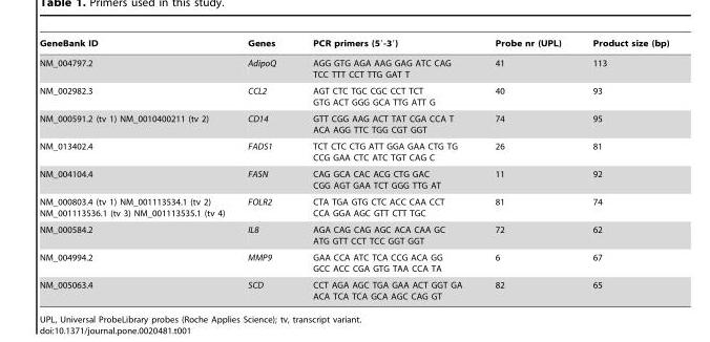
<table><thead><tr><td>GeneBank ID</td><td>Genes</td><td>PCR primers (5′-3′)</td><td>Probe nr (UPL)</td><td>Product size (bp)</td></tr></thead><tbody><tr><td>NM_004797.2</td><td>AdipoQ</td><td>AGG GTG AGA AAG GAG ATC CAG TCC TTT CCT TTG GAT T</td><td>41</td><td>113</td></tr><tr><td>NM_002982.3</td><td>CCL2</td><td>AGT CTC TGC CGC CCT TCT GTG ACT GGG GCA TTG ATT G</td><td>40</td><td>93</td></tr><tr><td>NM_000591.2 (tv 1) NM_0010400211 (tv 2)</td><td>CD14</td><td>GTT CGG AAG ACT TAT CGA CCA T ACA AGG TTC TGG CGT GGT</td><td>74</td><td>95</td></tr><tr><td>NM_013402.4</td><td>FADS1</td><td>TCT CTC CTG ATT GGA GAA CTG TG CCG GAA CTC ATC TGT CAG C</td><td>26</td><td>81</td></tr><tr><td>NM_004104.4</td><td>FASN</td><td>CAG GCA CAC ACG CTG GAC CGG AGT GAA TCT GGG TTG AT</td><td>11</td><td>92</td></tr><tr><td>NM_000803.4 (tv 1) NM_001113534.1 (tv 2) NM_001113536.1 (tv 3) NM_001113535.1 (tv 4)</td><td>FOLR2</td><td>CTA TGA GTG CTC ACC CAA CCT CCA GGA AGC GTT CTT TGC</td><td>81</td><td>74</td></tr><tr><td>NM_000584.2</td><td>IL8</td><td>AGA CAG CAG AGC ACA CAA GC ATG GTT CCT TCC GGT GGT</td><td>72</td><td>62</td></tr><tr><td>NM_004994.2</td><td>MMP9</td><td>GAA CCA ATC TCA CCG ACA GG GCC ACC CGA GTG TAA CCA TA</td><td>6</td><td>67</td></tr><tr><td>NM_005063.4</td><td>SCD</td><td>CCT AGA AGC TGA GAA ACT GGT GA ACA TCA TCA GCA AGC CAG GT</td><td>82</td><td>65</td></tr></tbody></table>